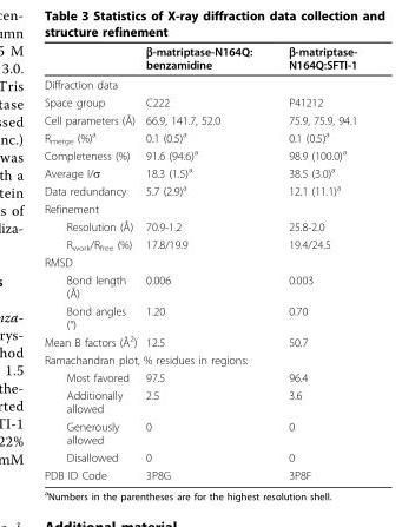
<table><thead><tr><td></td><td>β-matriptase-N164Q: benzamidine</td><td>β-matriptase- N164Q:SFTI-1</td></tr></thead><tbody><tr><td colspan="3">Diffraction data</td></tr><tr><td>Space group</td><td>C222</td><td>P41212</td></tr><tr><td>Cell parameters (Å)</td><td>66.9, 141.7, 52.0</td><td>75.9, 75.9, 94.1</td></tr><tr><td>R<sub>merge</sub> (%)<sup>a</sup></td><td>0.1 (0.5)<sup>a</sup></td><td>0.1 (0.5)<sup>a</sup></td></tr><tr><td>Completeness (%)</td><td>91.6 (94.6)<sup>a</sup></td><td>98.9 (100.0)<sup>a</sup></td></tr><tr><td>Average I/σ</td><td>18.3 (1.5)<sup>a</sup></td><td>38.5 (3.0)<sup>a</sup></td></tr><tr><td>Data redundancy</td><td>5.7 (2.9)<sup>a</sup></td><td>12.1 (11.1)<sup>a</sup></td></tr><tr><td colspan="3">Refinement</td></tr><tr><td>Resolution (Å)</td><td>70.9-1.2</td><td>25.8-2.0</td></tr><tr><td>R<sub>work</sub>/R<sub>free</sub> (%)</td><td>17.8/19.9</td><td>19.4/24.5</td></tr><tr><td colspan="3">RMSD</td></tr><tr><td>Bond length (Å)</td><td>0.006</td><td>0.003</td></tr><tr><td>Bond angles (°)</td><td>1.20</td><td>0.70</td></tr><tr><td>Mean B factors (Å<sup>2</sup>)</td><td>12.5</td><td>50.7</td></tr><tr><td colspan="3">Ramachandran plot, % residues in regions:</td></tr><tr><td>Most favored</td><td>97.5</td><td>96.4</td></tr><tr><td>Additionally allowed</td><td>2.5</td><td>3.6</td></tr><tr><td>Generously allowed</td><td>0</td><td>0</td></tr><tr><td>Disallowed</td><td>0</td><td>0</td></tr><tr><td>PDB ID Code</td><td>3P8G</td><td>3P8F</td></tr></tbody></table>